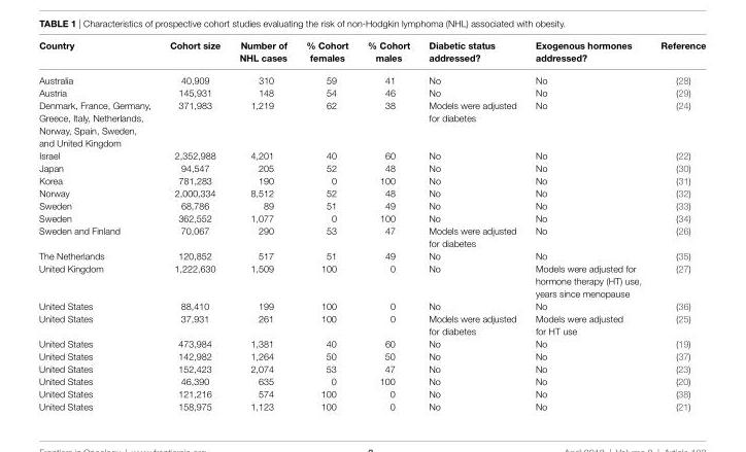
<table><thead><tr><td>Country</td><td>Cohort size</td><td>Number of NHL cases</td><td>% Cohort females</td><td>% Cohort males</td><td>Diabetic status addressed?</td><td>exogenous hormones addressed?</td><td>Reference</td></tr></thead><tbody><tr><td>Australia</td><td>40,909</td><td>310</td><td>59</td><td>41</td><td>No</td><td>No</td><td>(28)</td></tr><tr><td>Austria</td><td>145,931</td><td>148</td><td>54</td><td>46</td><td>No</td><td>No</td><td>(29)</td></tr><tr><td>Denmark, France, Germany, Greece, Italy, Netherlands, Norway, Spain, Sweden, and United Kingdom</td><td>371,983</td><td>1,219</td><td>62</td><td>38</td><td>Models were adjusted for diabetes</td><td>No</td><td>(24)</td></tr><tr><td>Israel</td><td>2,352,988</td><td>4,201</td><td>40</td><td>60</td><td>No</td><td>No</td><td>(22)</td></tr><tr><td>Japan</td><td>94,547</td><td>205</td><td>52</td><td>48</td><td>No</td><td>No</td><td>(30)</td></tr><tr><td>Korea</td><td>781,283</td><td>190</td><td>0</td><td>100</td><td>No</td><td>No</td><td>(31)</td></tr><tr><td>Norway</td><td>2,000,334</td><td>8,512</td><td>52</td><td>48</td><td>No</td><td>No</td><td>(32)</td></tr><tr><td>Sweden</td><td>68,786</td><td>89</td><td>51</td><td>49</td><td>No</td><td>No</td><td>(33)</td></tr><tr><td>Sweden</td><td>362,552</td><td>1,077</td><td>0</td><td>100</td><td>No</td><td>No</td><td>(34)</td></tr><tr><td>Sweden and Finland</td><td>70,067</td><td>290</td><td>53</td><td>47</td><td>Models were adjusted for diabetes</td><td>No</td><td>(26)</td></tr><tr><td>The Netherlands</td><td>120,852</td><td>517</td><td>51</td><td>49</td><td>No</td><td>No</td><td>(35)</td></tr><tr><td>United Kingdom</td><td>1,222,630</td><td>1,509</td><td>100</td><td>0</td><td>No</td><td>Models were adjusted for hormone therapy (HT) use, years since menopause</td><td>(27)</td></tr><tr><td>United States</td><td>88,410</td><td>199</td><td>100</td><td>0</td><td>No</td><td>No</td><td>(36)</td></tr><tr><td>United States</td><td>37,931</td><td>261</td><td>100</td><td>0</td><td>Models were adjusted for diabetes</td><td>Models were adjusted for HT use</td><td>(25)</td></tr><tr><td>United States</td><td>473,984</td><td>1,381</td><td>40</td><td>60</td><td>No</td><td>No</td><td>(19)</td></tr><tr><td>United States</td><td>142,982</td><td>1,264</td><td>50</td><td>50</td><td>No</td><td>No</td><td>(37)</td></tr><tr><td>United States</td><td>152,423</td><td>2,074</td><td>53</td><td>47</td><td>No</td><td>No</td><td>(23)</td></tr><tr><td>United States</td><td>46,390</td><td>635</td><td>0</td><td>100</td><td>No</td><td>No</td><td>(20)</td></tr><tr><td>United States</td><td>121,216</td><td>574</td><td>100</td><td>0</td><td>No</td><td>No</td><td>(38)</td></tr><tr><td>United States</td><td>158,975</td><td>1,123</td><td>100</td><td>0</td><td>No</td><td>No</td><td>(21)</td></tr></tbody></table>